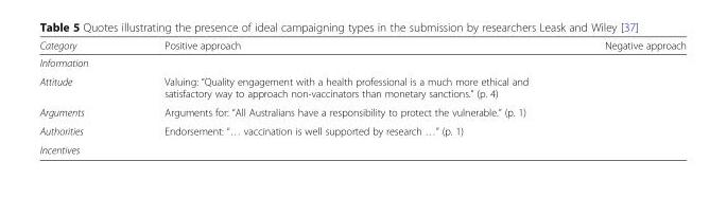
<table><thead><tr><td>Category</td><td>Positive approach</td><td>Negative approach</td></tr></thead><tbody><tr><td colspan="3">Information</td></tr><tr><td>Attitude</td><td>Valuing: “Quality engagement with a health professional is a much more ethical and satisfactory way to approach non-vaccinators than monetary sanctions.” (p. 4)</td><td></td></tr><tr><td>Arguments</td><td>Arguments for: “All Australians have a responsibility to protect the vulnerable.” (p. 1)</td><td></td></tr><tr><td>Authorities</td><td>Endorsement: “… vaccination is well supported by research …” (p. 1)</td><td></td></tr><tr><td>Incentives</td><td></td><td></td></tr></tbody></table>